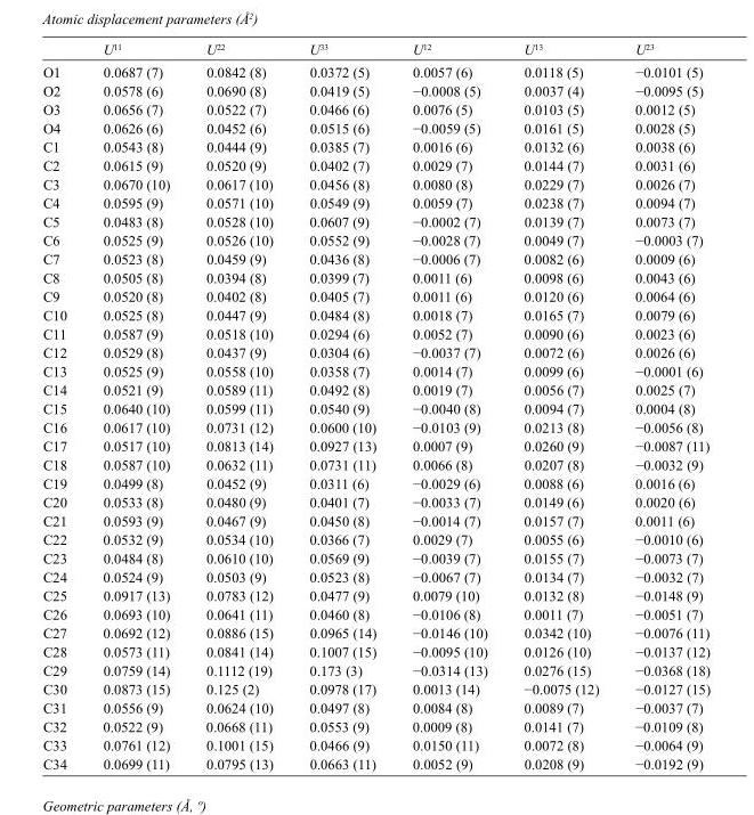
<table><thead><tr><td></td><td>U<sup>11</sup></td><td>U<sup>22</sup></td><td>U<sup>33</sup></td><td>U<sup>12</sup></td><td>U<sup>13</sup></td><td>U<sup>23</sup></td></tr></thead><tbody><tr><td>O1</td><td>0.0687 (7)</td><td>0.0842 (8)</td><td>0.0372 (5)</td><td>0.0057 (6)</td><td>0.0118 (5)</td><td>−0.0101 (5)</td></tr><tr><td>O2</td><td>0.0578 (6)</td><td>0.0690 (8)</td><td>0.0419 (5)</td><td>−0.0008 (5)</td><td>0.0037 (4)</td><td>−0.0095 (5)</td></tr><tr><td>O3</td><td>0.0656 (7)</td><td>0.0522 (7)</td><td>0.0466 (6)</td><td>0.0076 (5)</td><td>0.0103 (5)</td><td>0.0012 (5)</td></tr><tr><td>O4</td><td>0.0626 (6)</td><td>0.0452 (6)</td><td>0.0515 (6)</td><td>−0.0059 (5)</td><td>0.0161 (5)</td><td>0.0028 (5)</td></tr><tr><td>C1</td><td>0.0543 (8)</td><td>0.0444 (9)</td><td>0.0385 (7)</td><td>0.0016 (6)</td><td>0.0132 (6)</td><td>0.0038 (6)</td></tr><tr><td>C2</td><td>0.0615 (9)</td><td>0.0520 (9)</td><td>0.0402 (7)</td><td>0.0029 (7)</td><td>0.0144 (7)</td><td>0.0031 (6)</td></tr><tr><td>C3</td><td>0.0670 (10)</td><td>0.0617 (10)</td><td>0.0456 (8)</td><td>0.0080 (8)</td><td>0.0229 (7)</td><td>0.0026 (7)</td></tr><tr><td>C4</td><td>0.0595 (9)</td><td>0.0571 (10)</td><td>0.0549 (9)</td><td>0.0059 (7)</td><td>0.0238 (7)</td><td>0.0094 (7)</td></tr><tr><td>C5</td><td>0.0483 (8)</td><td>0.0528 (10)</td><td>0.0607 (9)</td><td>−0.0002 (7)</td><td>0.0139 (7)</td><td>0.0073 (7)</td></tr><tr><td>C6</td><td>0.0525 (9)</td><td>0.0526 (10)</td><td>0.0552 (9)</td><td>−0.0028 (7)</td><td>0.0049 (7)</td><td>−0.0003 (7)</td></tr><tr><td>C7</td><td>0.0523 (8)</td><td>0.0459 (9)</td><td>0.0436 (8)</td><td>−0.0006 (7)</td><td>0.0082 (6)</td><td>0.0009 (6)</td></tr><tr><td>C8</td><td>0.0505 (8)</td><td>0.0394 (8)</td><td>0.0399 (7)</td><td>0.0011 (6)</td><td>0.0098 (6)</td><td>0.0043 (6)</td></tr><tr><td>C9</td><td>0.0520 (8)</td><td>0.0402 (8)</td><td>0.0405 (7)</td><td>0.0011 (6)</td><td>0.0120 (6)</td><td>0.0064 (6)</td></tr><tr><td>C10</td><td>0.0525 (8)</td><td>0.0447 (9)</td><td>0.0484 (8)</td><td>0.0018 (7)</td><td>0.0165 (7)</td><td>0.0079 (6)</td></tr><tr><td>C11</td><td>0.0587 (9)</td><td>0.0518 (10)</td><td>0.0294 (6)</td><td>0.0052 (7)</td><td>0.0090 (6)</td><td>0.0023 (6)</td></tr><tr><td>C12</td><td>0.0529 (8)</td><td>0.0437 (9)</td><td>0.0304 (6)</td><td>−0.0037 (7)</td><td>0.0072 (6)</td><td>0.0026 (6)</td></tr><tr><td>C13</td><td>0.0525 (9)</td><td>0.0558 (10)</td><td>0.0358 (7)</td><td>0.0014 (7)</td><td>0.0099 (6)</td><td>−0.0001 (6)</td></tr><tr><td>C14</td><td>0.0521 (9)</td><td>0.0589 (11)</td><td>0.0492 (8)</td><td>0.0019 (7)</td><td>0.0056 (7)</td><td>0.0025 (7)</td></tr><tr><td>C15</td><td>0.0640 (10)</td><td>0.0599 (11)</td><td>0.0540 (9)</td><td>−0.0040 (8)</td><td>0.0094 (7)</td><td>0.0004 (8)</td></tr><tr><td>C16</td><td>0.0617 (10)</td><td>0.0731 (12)</td><td>0.0600 (10)</td><td>−0.0103 (9)</td><td>0.0213 (8)</td><td>−0.0056 (8)</td></tr><tr><td>C17</td><td>0.0517 (10)</td><td>0.0813 (14)</td><td>0.0927 (13)</td><td>0.0007 (9)</td><td>0.0260 (9)</td><td>−0.0087 (11)</td></tr><tr><td>C18</td><td>0.0587 (10)</td><td>0.0632 (11)</td><td>0.0731 (11)</td><td>0.0066 (8)</td><td>0.0207 (8)</td><td>−0.0032 (9)</td></tr><tr><td>C19</td><td>0.0499 (8)</td><td>0.0452 (9)</td><td>0.0311 (6)</td><td>−0.0029 (6)</td><td>0.0088 (6)</td><td>0.0016 (6)</td></tr><tr><td>C20</td><td>0.0533 (8)</td><td>0.0480 (9)</td><td>0.0401 (7)</td><td>−0.0033 (7)</td><td>0.0149 (6)</td><td>0.0020 (6)</td></tr><tr><td>C21</td><td>0.0593 (9)</td><td>0.0467 (9)</td><td>0.0450 (8)</td><td>−0.0014 (7)</td><td>0.0157 (7)</td><td>0.0011 (6)</td></tr><tr><td>C22</td><td>0.0532 (9)</td><td>0.0534 (10)</td><td>0.0366 (7)</td><td>0.0029 (7)</td><td>0.0055 (6)</td><td>−0.0010 (6)</td></tr><tr><td>C23</td><td>0.0484 (8)</td><td>0.0610 (10)</td><td>0.0569 (9)</td><td>−0.0039 (7)</td><td>0.0155 (7)</td><td>−0.0073 (7)</td></tr><tr><td>C24</td><td>0.0524 (9)</td><td>0.0503 (9)</td><td>0.0523 (8)</td><td>−0.0067 (7)</td><td>0.0134 (7)</td><td>−0.0032 (7)</td></tr><tr><td>C25</td><td>0.0917 (13)</td><td>0.0783 (12)</td><td>0.0477 (9)</td><td>0.0079 (10)</td><td>0.0132 (8)</td><td>−0.0148 (9)</td></tr><tr><td>C26</td><td>0.0693 (10)</td><td>0.0641 (11)</td><td>0.0460 (8)</td><td>−0.0106 (8)</td><td>0.0011 (7)</td><td>−0.0051 (7)</td></tr><tr><td>C27</td><td>0.0692 (12)</td><td>0.0886 (15)</td><td>0.0965 (14)</td><td>−0.0146 (10)</td><td>0.0342 (10)</td><td>−0.0076 (11)</td></tr><tr><td>C28</td><td>0.0573 (11)</td><td>0.0841 (14)</td><td>0.1007 (15)</td><td>−0.0095 (10)</td><td>0.0126 (10)</td><td>−0.0137 (12)</td></tr><tr><td>C29</td><td>0.0759 (14)</td><td>0.1112 (19)</td><td>0.173 (3)</td><td>−0.0314 (13)</td><td>0.0276 (15)</td><td>−0.0368 (18)</td></tr><tr><td>C30</td><td>0.0873 (15)</td><td>0.125 (2)</td><td>0.0978 (17)</td><td>0.0013 (14)</td><td>−0.0075 (12)</td><td>−0.0127 (15)</td></tr><tr><td>C31</td><td>0.0556 (9)</td><td>0.0624 (10)</td><td>0.0497 (8)</td><td>0.0084 (8)</td><td>0.0089 (7)</td><td>−0.0037 (7)</td></tr><tr><td>C32</td><td>0.0522 (9)</td><td>0.0668 (11)</td><td>0.0553 (9)</td><td>0.0009 (8)</td><td>0.0141 (7)</td><td>−0.0109 (8)</td></tr><tr><td>C33</td><td>0.0761 (12)</td><td>0.1001 (15)</td><td>0.0466 (9)</td><td>0.0150 (11)</td><td>0.0072 (8)</td><td>−0.0064 (9)</td></tr><tr><td>C34</td><td>0.0699 (11)</td><td>0.0795 (13)</td><td>0.0663 (11)</td><td>0.0052 (9)</td><td>0.0208 (9)</td><td>−0.0192 (9)</td></tr></tbody></table>